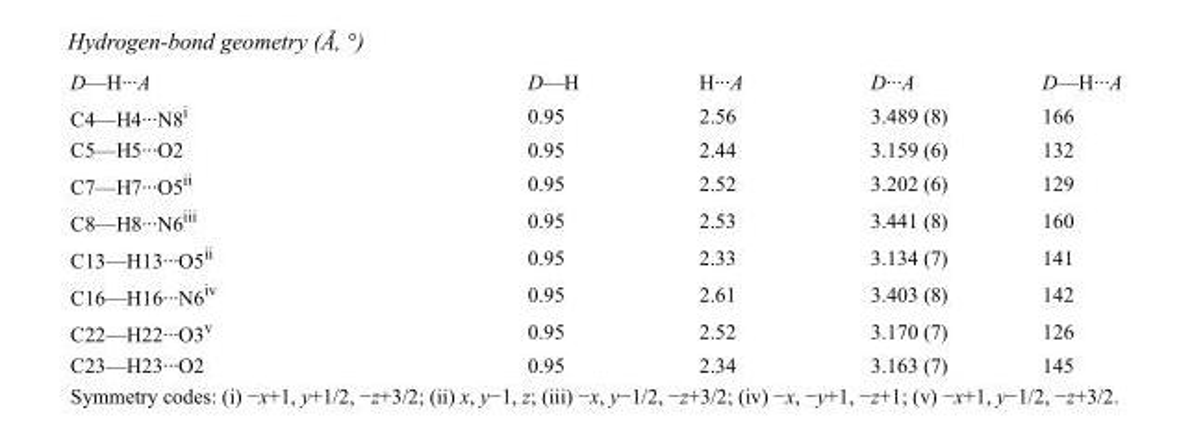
<table><tbody><tr><td>D—H···A</td><td>D—H</td><td>H···A</td><td>D···A</td><td>D—H···A</td></tr><tr><td>C4—H4···N8<sup>i</sup></td><td>0.95</td><td>2.56</td><td>3.489 (8)</td><td>166</td></tr><tr><td>C5—H5···O2</td><td>0.95</td><td>2.44</td><td>3.159 (6)</td><td>132</td></tr><tr><td>C7—H7···O5<sup>ii</sup></td><td>0.95</td><td>2.52</td><td>3.202 (6)</td><td>129</td></tr><tr><td>C8—H8···N6<sup>iii</sup></td><td>0.95</td><td>2.53</td><td>3.441 (8)</td><td>160</td></tr><tr><td>C13—H13···O5<sup>ii</sup></td><td>0.95</td><td>2.33</td><td>3.134 (7)</td><td>141</td></tr><tr><td>C16—H16···N6<sup>iv</sup></td><td>0.95</td><td>2.61</td><td>3.403 (8)</td><td>142</td></tr><tr><td>C22—H22···O3<sup>v</sup></td><td>0.95</td><td>2.52</td><td>3.170 (7)</td><td>126</td></tr><tr><td>C23—H23···O2</td><td>0.95</td><td>2.34</td><td>3.163 (7)</td><td>145</td></tr></tbody></table>